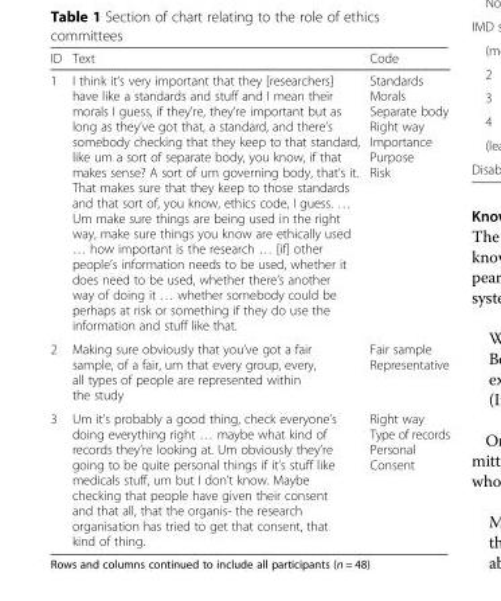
<table><thead><tr><td>ID</td><td>Text</td><td>Code</td></tr></thead><tbody><tr><td>1</td><td>I think it’s very important that they [researchers] have like a standards and stuff and I mean their morals I guess, if they’re, they’re important but as long as they’ve got that, a standard, and there’s somebody checking that they keep to that standard, like um a sort of separate body, you know, if that makes sense? A sort of um governing body, that’s it. That makes sure that they keep to those standards and that sort of, you know, ethics code, I guess. … Um make sure things are being used in the right way, make sure things you know are ethically used … how important is the research … [if] other people’s information needs to be used, whether it does need to be used, whether there’s another way of doing it … whether somebody could be perhaps at risk or something if they do use the information and stuff like that.</td><td>Standards Morals Separate body Right way Importance Purpose Risk</td></tr><tr><td>2</td><td>Making sure obviously that you’ve got a fair sample, of a fair, um that every group, every, all types of people are represented within the study</td><td>Fair sample Representative</td></tr><tr><td>3</td><td>Um it’s probably a good thing, check everyone’s doing everything right … maybe what kind of records they’re looking at. Um obviously they’re going to be quite personal things if it’s stuff like medicals stuff, um but I don’t know. Maybe checking that people have given their consent and that all, that the organis- the research organisation has tried to get that consent, that kind of thing.</td><td>Right way Type of records Personal Consent</td></tr></tbody></table>